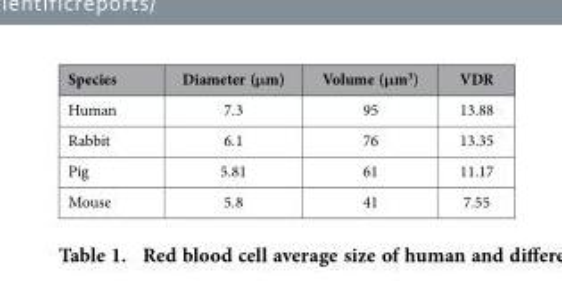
<table><thead><tr><td>Species</td><td>Diameter (μm)</td><td>Volume (μm<sup>3</sup>)</td><td>VDR</td></tr></thead><tbody><tr><td>Human</td><td>7.3</td><td>95</td><td>13.88</td></tr><tr><td>Rabbit</td><td>6.1</td><td>76</td><td>13.35</td></tr><tr><td>Pig</td><td>5.81</td><td>61</td><td>11.17</td></tr><tr><td>Mouse</td><td>5.8</td><td>41</td><td>7.55</td></tr></tbody></table>